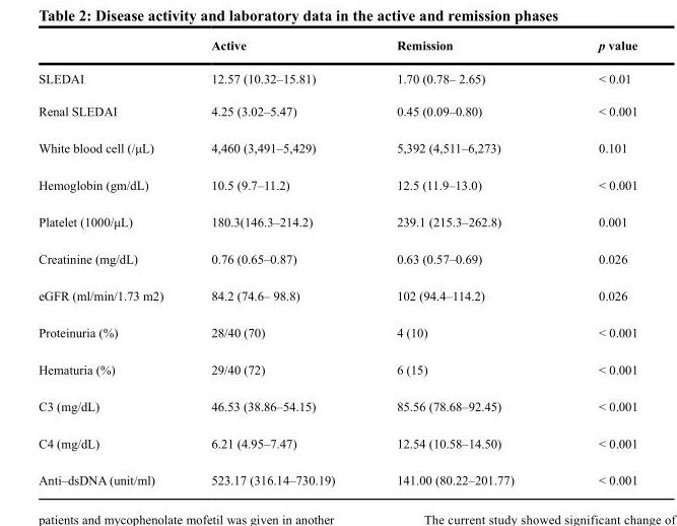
<table><thead><tr><td></td><td>Active</td><td>Remission</td><td>p value</td></tr></thead><tbody><tr><td>SLEDAI</td><td>12.57 (10.32–15.81)</td><td>1.70 (0.78– 2.65)</td><td>&lt; 0.01</td></tr><tr><td>Renal SLEDAI</td><td>4.25 (3.02–5.47)</td><td>0.45 (0.09–0.80)</td><td>&lt; 0.001</td></tr><tr><td>White blood cell (/μL)</td><td>4,460 (3,491–5,429)</td><td>5,392 (4,511–6,273)</td><td>0.101</td></tr><tr><td>Hemoglobin (gm/dL)</td><td>10.5 (9.7–11.2)</td><td>12.5 (11.9–13.0)</td><td>&lt; 0.001</td></tr><tr><td>Platelet (1000/μL)</td><td>180.3(146.3–214.2)</td><td>239.1 (215.3–262.8)</td><td>0.001</td></tr><tr><td>Creatinine (mg/dL)</td><td>0.76 (0.65–0.87)</td><td>0.63 (0.57–0.69)</td><td>0.026</td></tr><tr><td>eGFR (ml/min/1.73 m2)</td><td>84.2 (74.6– 98.8)</td><td>102 (94.4–114.2)</td><td>0.026</td></tr><tr><td>Proteinuria (%)</td><td>28/40 (70)</td><td>4 (10)</td><td>&lt; 0.001</td></tr><tr><td>Hematuria (%)</td><td>29/40 (72)</td><td>6 (15)</td><td>&lt; 0.001</td></tr><tr><td>C3 (mg/dL)</td><td>46.53 (38.86–54.15)</td><td>85.56 (78.68–92.45)</td><td>&lt; 0.001</td></tr><tr><td>C4 (mg/dL)</td><td>6.21 (4.95–7.47)</td><td>12.54 (10.58–14.50)</td><td>&lt; 0.001</td></tr><tr><td>Anti–dsDNA (unit/ml)</td><td>523.17 (316.14–730.19)</td><td>141.00 (80.22–201.77)</td><td>&lt; 0.001</td></tr></tbody></table>